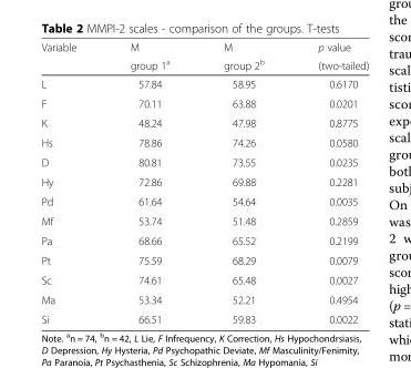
<table><thead><tr><td rowspan="2">Variable</td><td rowspan="2">M group 1<sup>a</sup></td><td rowspan="2">M group 2<sup>b</sup></td><td rowspan="2">p value (two-tailed)</td></tr><tr></tr></thead><tbody><tr><td>L</td><td>57.84</td><td>58.95</td><td>0.6170</td></tr><tr><td>F</td><td>70.11</td><td>63.88</td><td>0.0201</td></tr><tr><td>K</td><td>48.24</td><td>47.98</td><td>0.8775</td></tr><tr><td>Hs</td><td>78.86</td><td>74.26</td><td>0.0580</td></tr><tr><td>D</td><td>80.81</td><td>73.55</td><td>0.0235</td></tr><tr><td>Hy</td><td>72.86</td><td>69.88</td><td>0.2281</td></tr><tr><td>Pd</td><td>61.64</td><td>54.64</td><td>0.0035</td></tr><tr><td>Mf</td><td>53.74</td><td>51.48</td><td>0.2859</td></tr><tr><td>Pa</td><td>68.66</td><td>65.52</td><td>0.2199</td></tr><tr><td>Pt</td><td>75.59</td><td>68.29</td><td>0.0079</td></tr><tr><td>Sc</td><td>74.61</td><td>65.48</td><td>0.0027</td></tr><tr><td>Ma</td><td>53.34</td><td>52.21</td><td>0.4954</td></tr><tr><td>Si</td><td>66.51</td><td>59.83</td><td>0.0022</td></tr></tbody></table>